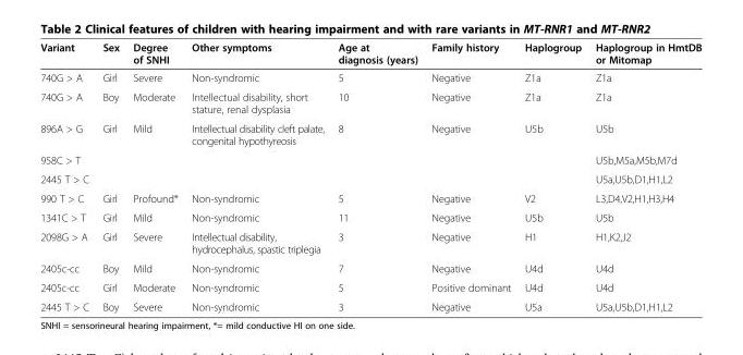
<table><thead><tr><td>Variant</td><td>Sex</td><td>Degree of SNHI</td><td>Other symptoms</td><td>Age at diagnosis (years)</td><td>Family history</td><td>Haplogroup</td><td>Haplogroup in HmtDB or Mitomap</td></tr></thead><tbody><tr><td>740G &gt; A</td><td>Girl</td><td>Severe</td><td>Non-syndromic</td><td>5</td><td>Negative</td><td>Z1a</td><td>Z1a</td></tr><tr><td>740G &gt; A</td><td>Boy</td><td>Moderate</td><td>Intellectual disability, short stature, renal dysplasia</td><td>10</td><td>Negative</td><td>Z1a</td><td>Z1a</td></tr><tr><td>896A &gt; G</td><td>Girl</td><td>Mild</td><td>Intellectual disability cleft palate, congenital hypothyreosis</td><td>8</td><td>Negative</td><td>U5b</td><td>U5b</td></tr><tr><td>958C &gt; T</td><td rowspan="2"></td><td rowspan="2"></td><td rowspan="2"></td><td rowspan="2"></td><td rowspan="2"></td><td rowspan="2"></td><td>U5b,M5a,M5b,M7d</td></tr><tr><td>2445 T &gt; C</td><td>U5a,U5b,D1,H1,L2</td></tr><tr><td>990 T &gt; C</td><td>Girl</td><td>Profound*</td><td>Non-syndromic</td><td>5</td><td>Negative</td><td>V2</td><td>L3,D4,V2,H1,H3,H4</td></tr><tr><td>1341C &gt; T</td><td>Girl</td><td>Mild</td><td>Non-syndromic</td><td>11</td><td>Negative</td><td>U5b</td><td>U5b</td></tr><tr><td>2098G &gt; A</td><td>Girl</td><td>Severe</td><td>Intellectual disability, hydrocephalus, spastic triplegia</td><td>3</td><td>Negative</td><td>H1</td><td>H1,K2,J2</td></tr><tr><td>2405c-cc</td><td>Boy</td><td>Mild</td><td>Non-syndromic</td><td>7</td><td>Negative</td><td>U4d</td><td>U4d</td></tr><tr><td>2405c-cc</td><td>Girl</td><td>Moderate</td><td>Non-syndromic</td><td>5</td><td>Positive dominant</td><td>U4d</td><td>U4d</td></tr><tr><td>2445 T &gt; C</td><td>Boy</td><td>Severe</td><td>Non-syndromic</td><td>3</td><td>Negative</td><td>U5a</td><td>U5a,U5b,D1,H1,L2</td></tr></tbody></table>